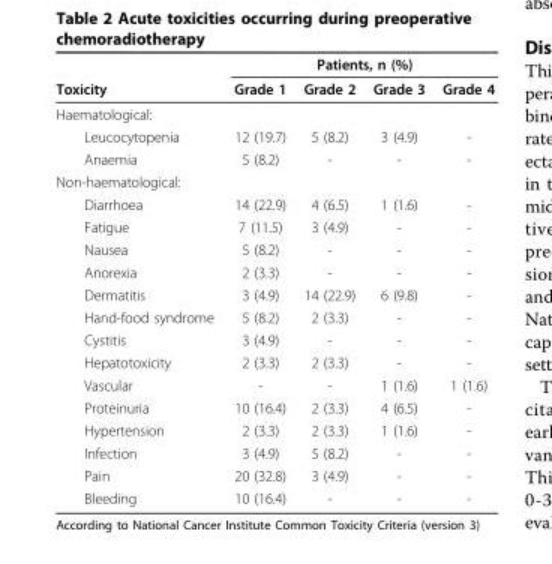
<table><thead><tr><td rowspan="2">Toxicity</td><td colspan="4">Patients, n (%)</td></tr><tr><td>Grade 1</td><td>Grade 2</td><td>Grade 3</td><td>Grade 4</td></tr></thead><tbody><tr><td colspan="5">Haematological:</td></tr><tr><td>Leucocytopenia</td><td>12 (19.7)</td><td>5 (8.2)</td><td>3 (4.9)</td><td>-</td></tr><tr><td>Anaemia</td><td>5 (8.2)</td><td>-</td><td>-</td><td>-</td></tr><tr><td colspan="5">Non-haematological:</td></tr><tr><td>Diarrhoea</td><td>14 (22.9)</td><td>4 (6.5)</td><td>1 (1.6)</td><td>-</td></tr><tr><td>Fatigue</td><td>7 (11.5)</td><td>3 (4.9)</td><td>-</td><td>-</td></tr><tr><td>Nausea</td><td>5 (8.2)</td><td>-</td><td>-</td><td>-</td></tr><tr><td>Anorexia</td><td>2 (3.3)</td><td>-</td><td>-</td><td>-</td></tr><tr><td>Dermatitis</td><td>3 (4.9)</td><td>14 (22.9)</td><td>6 (9.8)</td><td>-</td></tr><tr><td>Hand-food syndrome</td><td>5 (8.2)</td><td>2 (3.3)</td><td>-</td><td>-</td></tr><tr><td>Cystitis</td><td>3 (4.9)</td><td>-</td><td>-</td><td>-</td></tr><tr><td>Hepatotoxicity</td><td>2 (3.3)</td><td>2 (3.3)</td><td>-</td><td>-</td></tr><tr><td>Vascular</td><td>-</td><td>-</td><td>1 (1.6)</td><td>1 (1.6)</td></tr><tr><td>Proteinuria</td><td>10 (16.4)</td><td>2 (3.3)</td><td>4 (6.5)</td><td>-</td></tr><tr><td>Hypertension</td><td>2 (3.3)</td><td>2 (3.3)</td><td>1 (1.6)</td><td>-</td></tr><tr><td>Infection</td><td>3 (4.9)</td><td>5 (8.2)</td><td>-</td><td>-</td></tr><tr><td>Pain</td><td>20 (32.8)</td><td>3 (4.9)</td><td>-</td><td>-</td></tr><tr><td>Bleeding</td><td>10 (16.4)</td><td>-</td><td>-</td><td>-</td></tr></tbody></table>